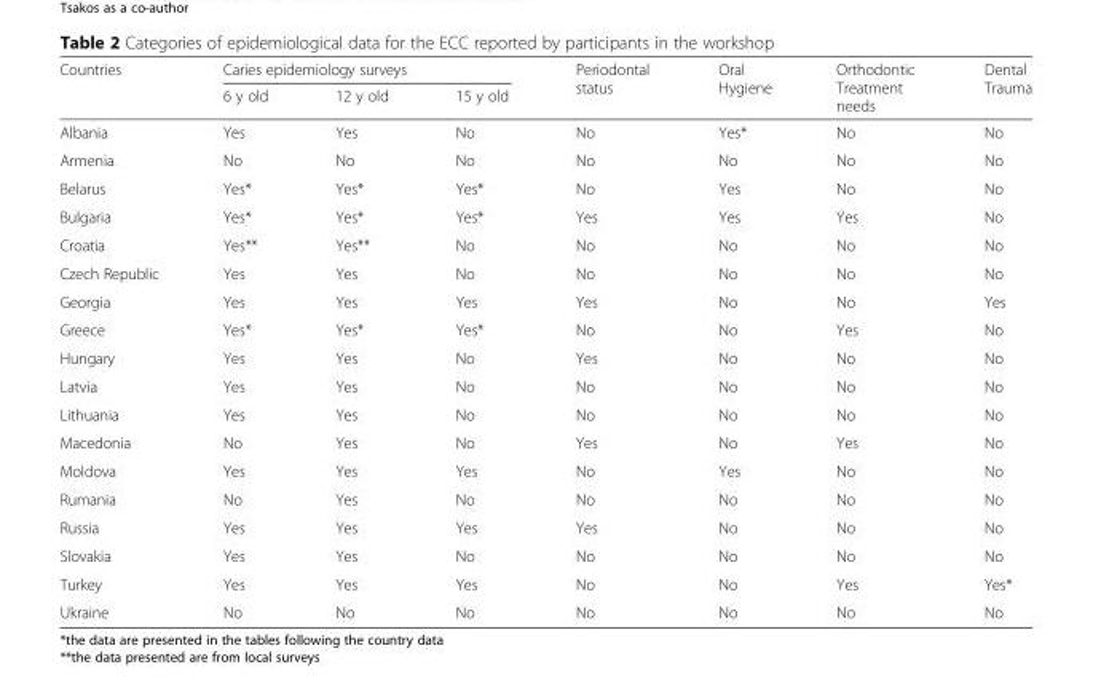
<table><thead><tr><td rowspan="2">Countries</td><td colspan="3">Caries epidemiology surveys</td><td rowspan="2">Periodontal status</td><td rowspan="2">Oral Hygiene</td><td rowspan="2">Orthodontic Treatment needs</td><td rowspan="2">Dental Trauma</td></tr><tr><td>6 y old</td><td>12 y old</td><td>15 y old</td></tr></thead><tbody><tr><td>Albania</td><td>Yes</td><td>Yes</td><td>No</td><td>No</td><td>Yes*</td><td>No</td><td>No</td></tr><tr><td>Armenia</td><td>No</td><td>No</td><td>No</td><td>No</td><td>No</td><td>No</td><td>No</td></tr><tr><td>Belarus</td><td>Yes*</td><td>Yes*</td><td>Yes*</td><td>No</td><td>Yes</td><td>No</td><td>No</td></tr><tr><td>Bulgaria</td><td>Yes*</td><td>Yes*</td><td>Yes*</td><td>Yes</td><td>Yes</td><td>Yes</td><td>No</td></tr><tr><td>Croatia</td><td>Yes**</td><td>Yes**</td><td>No</td><td>No</td><td>No</td><td>No</td><td>No</td></tr><tr><td>Czech Republic</td><td>Yes</td><td>Yes</td><td>No</td><td>No</td><td>No</td><td>No</td><td>No</td></tr><tr><td>Georgia</td><td>Yes</td><td>Yes</td><td>Yes</td><td>Yes</td><td>No</td><td>No</td><td>Yes</td></tr><tr><td>Greece</td><td>Yes*</td><td>Yes*</td><td>Yes*</td><td>No</td><td>No</td><td>Yes</td><td>No</td></tr><tr><td>Hungary</td><td>Yes</td><td>Yes</td><td>No</td><td>Yes</td><td>No</td><td>No</td><td>No</td></tr><tr><td>Latvia</td><td>Yes</td><td>Yes</td><td>No</td><td>No</td><td>No</td><td>No</td><td>No</td></tr><tr><td>Lithuania</td><td>Yes</td><td>Yes</td><td>No</td><td>No</td><td>No</td><td>No</td><td>No</td></tr><tr><td>Macedonia</td><td>No</td><td>Yes</td><td>No</td><td>Yes</td><td>No</td><td>Yes</td><td>No</td></tr><tr><td>Moldova</td><td>Yes</td><td>Yes</td><td>Yes</td><td>No</td><td>Yes</td><td>No</td><td>No</td></tr><tr><td>Rumania</td><td>No</td><td>Yes</td><td>No</td><td>No</td><td>No</td><td>No</td><td>No</td></tr><tr><td>Russia</td><td>Yes</td><td>Yes</td><td>Yes</td><td>Yes</td><td>No</td><td>No</td><td>No</td></tr><tr><td>Slovakia</td><td>Yes</td><td>Yes</td><td>No</td><td>No</td><td>No</td><td>No</td><td>No</td></tr><tr><td>Turkey</td><td>Yes</td><td>Yes</td><td>Yes</td><td>No</td><td>No</td><td>Yes</td><td>Yes*</td></tr><tr><td>Ukraine</td><td>No</td><td>No</td><td>No</td><td>No</td><td>No</td><td>No</td><td>No</td></tr></tbody></table>